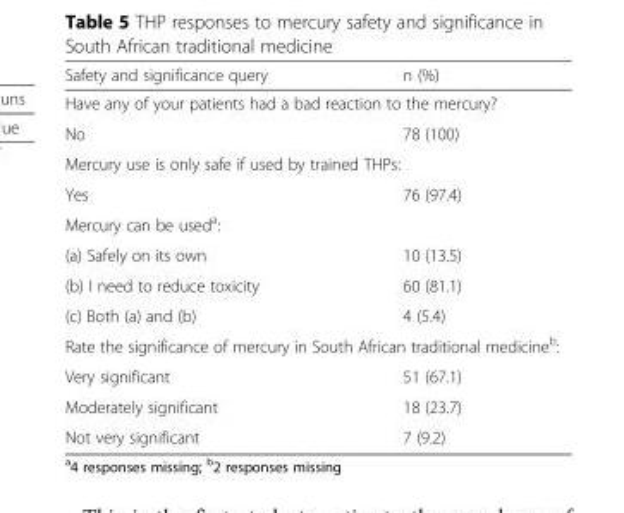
<table><thead><tr><td>Safety and significance query</td><td>n (%)</td></tr></thead><tbody><tr><td colspan="2">Have any of your patients had a bad reaction to the mercury?</td></tr><tr><td>No</td><td>78 (100)</td></tr><tr><td colspan="2">Mercury use is only safe if used by trained THPs:</td></tr><tr><td>Yes</td><td>76 (97.4)</td></tr><tr><td colspan="2">Mercury can be used<sup>a</sup>:</td></tr><tr><td>(a) Safely on its own</td><td>10 (13.5)</td></tr><tr><td>(b) I need to reduce toxicity</td><td>60 (81.1)</td></tr><tr><td>(c) Both (a) and (b)</td><td>4 (5.4)</td></tr><tr><td colspan="2">Rate the significance of mercury in South African traditional medicine<sup>b</sup>:</td></tr><tr><td>Very significant</td><td>51 (67.1)</td></tr><tr><td>Moderately significant</td><td>18 (23.7)</td></tr><tr><td>Not very significant</td><td>7 (9.2)</td></tr></tbody></table>